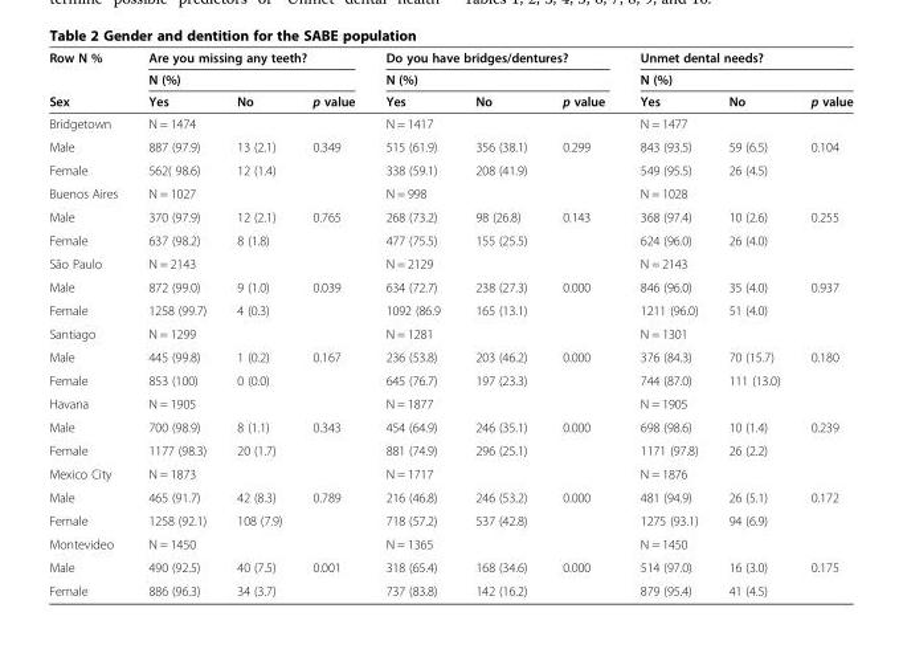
<table><thead><tr><td rowspan="3">Row N % Sex</td><td rowspan="2" colspan="3">Are you missing any teeth? N (%)</td><td rowspan="2" colspan="3">Do you have bridges/dentures? N (%)</td><td rowspan="2" colspan="3">Unmet dental needs? N (%)</td></tr><tr></tr><tr><td>Yes</td><td>No</td><td>p value</td><td>Yes</td><td>No</td><td>p value</td><td>Yes</td><td>No</td><td>p value</td></tr></thead><tbody><tr><td>Bridgetown</td><td colspan="2">N = 1474</td><td></td><td colspan="2">N = 1417</td><td></td><td colspan="3">N = 1477</td></tr><tr><td>Male</td><td>887 (97.9)</td><td>13 (2.1)</td><td>0.349</td><td>515 (61.9)</td><td>356 (38.1)</td><td>0.299</td><td>843 (93.5)</td><td>59 (6.5)</td><td>0.104</td></tr><tr><td>Female</td><td>562( 98.6)</td><td>12 (1.4)</td><td></td><td>338 (59.1)</td><td>208 (41.9)</td><td></td><td>549 (95.5)</td><td>26 (4.5)</td><td></td></tr><tr><td>Buenos Aires</td><td colspan="2">N = 1027</td><td></td><td colspan="2">N = 998</td><td></td><td colspan="3">N = 1028</td></tr><tr><td>Male</td><td>370 (97.9)</td><td>12 (2.1)</td><td>0.765</td><td>268 (73.2)</td><td>98 (26.8)</td><td>0.143</td><td>368 (97.4)</td><td>10 (2.6)</td><td>0.255</td></tr><tr><td>Female</td><td>637 (98.2)</td><td>8 (1.8)</td><td></td><td>477 (75.5)</td><td>155 (25.5)</td><td></td><td>624 (96.0)</td><td>26 (4.0)</td><td></td></tr><tr><td>São Paulo</td><td colspan="2">N = 2143</td><td></td><td colspan="2">N = 2129</td><td></td><td colspan="3">N = 2143</td></tr><tr><td>Male</td><td>872 (99.0)</td><td>9 (1.0)</td><td>0.039</td><td>634 (72.7)</td><td>238 (27.3)</td><td>0.000</td><td>846 (96.0)</td><td>35 (4.0)</td><td>0.937</td></tr><tr><td>Female</td><td>1258 (99.7)</td><td>4 (0.3)</td><td></td><td>1092 (86.9</td><td>165 (13.1)</td><td></td><td>1211 (96.0)</td><td>51 (4.0)</td><td></td></tr><tr><td>Santiago</td><td colspan="2">N = 1299</td><td></td><td colspan="2">N = 1281</td><td></td><td colspan="3">N = 1301</td></tr><tr><td>Male</td><td>445 (99.8)</td><td>1 (0.2)</td><td>0.167</td><td>236 (53.8)</td><td>203 (46.2)</td><td>0.000</td><td>376 (84.3)</td><td>70 (15.7)</td><td>0.180</td></tr><tr><td>Female</td><td>853 (100)</td><td>0 (0.0)</td><td></td><td>645 (76.7)</td><td>197 (23.3)</td><td></td><td>744 (87.0)</td><td>111 (13.0)</td><td></td></tr><tr><td>Havana</td><td colspan="2">N = 1905</td><td></td><td colspan="2">N = 1877</td><td></td><td colspan="3">N = 1905</td></tr><tr><td>Male</td><td>700 (98.9)</td><td>8 (1.1)</td><td>0.343</td><td>454 (64.9)</td><td>246 (35.1)</td><td>0.000</td><td>698 (98.6)</td><td>10 (1.4)</td><td>0.239</td></tr><tr><td>Female</td><td>1177 (98.3)</td><td>20 (1.7)</td><td></td><td>881 (74.9)</td><td>296 (25.1)</td><td></td><td>1171 (97.8)</td><td>26 (2.2)</td><td></td></tr><tr><td>Mexico City</td><td colspan="2">N = 1873</td><td></td><td colspan="2">N = 1717</td><td></td><td colspan="3">N = 1876</td></tr><tr><td>Male</td><td>465 (91.7)</td><td>42 (8.3)</td><td>0.789</td><td>216 (46.8)</td><td>246 (53.2)</td><td>0.000</td><td>481 (94.9)</td><td>26 (5.1)</td><td>0.172</td></tr><tr><td>Female</td><td>1258 (92.1)</td><td>108 (7.9)</td><td></td><td>718 (57.2)</td><td>537 (42.8)</td><td></td><td>1275 (93.1)</td><td>94 (6.9)</td><td></td></tr><tr><td>Montevideo</td><td colspan="2">N = 1450</td><td></td><td colspan="2">N = 1365</td><td></td><td colspan="3">N = 1450</td></tr><tr><td>Male</td><td>490 (92.5)</td><td>40 (7.5)</td><td>0.001</td><td>318 (65.4)</td><td>168 (34.6)</td><td>0.000</td><td>514 (97.0)</td><td>16 (3.0)</td><td>0.175</td></tr><tr><td>Female</td><td>886 (96.3)</td><td>34 (3.7)</td><td></td><td>737 (83.8)</td><td>142 (16.2)</td><td></td><td>879 (95.4)</td><td>41 (4.5)</td><td></td></tr></tbody></table>